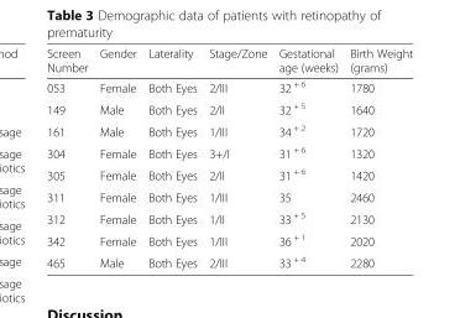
<table><thead><tr><td>Screen Number</td><td>Gender</td><td>Laterality</td><td>Stage/Zone</td><td>Gestational age (weeks)</td><td>Birth Weight (grams)</td></tr></thead><tbody><tr><td>053</td><td>Female</td><td>Both Eyes</td><td>2/III</td><td>32 <sup>+ 6</sup></td><td>1780</td></tr><tr><td>149</td><td>Male</td><td>Both Eyes</td><td>2/II</td><td>32 <sup>+ 5</sup></td><td>1640</td></tr><tr><td>161</td><td>Male</td><td>Both Eyes</td><td>1/III</td><td>34 <sup>+ 2</sup></td><td>1720</td></tr><tr><td>304</td><td>Female</td><td>Both Eyes</td><td>3+/I</td><td>31 <sup>+ 6</sup></td><td>1320</td></tr><tr><td>305</td><td>Female</td><td>Both Eyes</td><td>2/II</td><td>31 <sup>+ 6</sup></td><td>1420</td></tr><tr><td>311</td><td>Female</td><td>Both Eyes</td><td>1/III</td><td>35</td><td>2460</td></tr><tr><td>312</td><td>Female</td><td>Both Eyes</td><td>1/II</td><td>33 <sup>+ 5</sup></td><td>2130</td></tr><tr><td>342</td><td>Female</td><td>Both Eyes</td><td>1/III</td><td>36 <sup>+ 1</sup></td><td>2020</td></tr><tr><td>465</td><td>Male</td><td>Both Eyes</td><td>2/III</td><td>33 <sup>+ 4</sup></td><td>2280</td></tr></tbody></table>